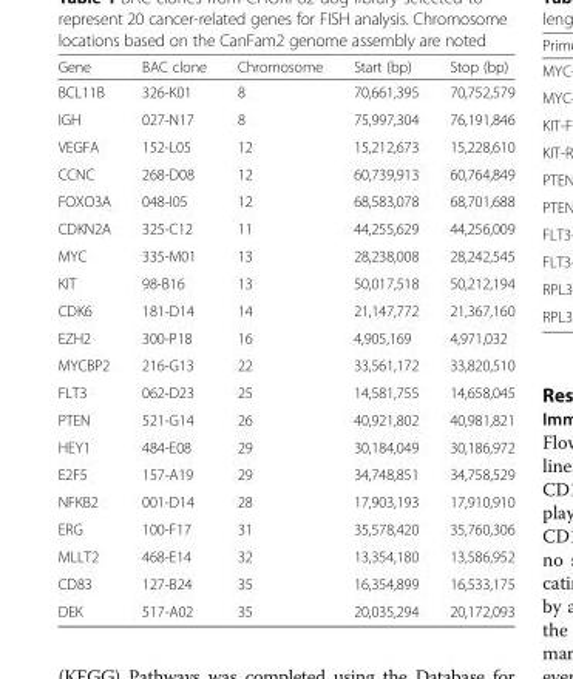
<table><thead><tr><td>Gene</td><td>BAC clone</td><td>Chromosome</td><td>Start (bp)</td><td>Stop (bp)</td></tr></thead><tbody><tr><td>BCL11B</td><td>326-K01</td><td>8</td><td>70,661,395</td><td>70,752,579</td></tr><tr><td>IGH</td><td>027-N17</td><td>8</td><td>75,997,304</td><td>76,191,846</td></tr><tr><td>VEGFA</td><td>152-L05</td><td>12</td><td>15,212,673</td><td>15,228,610</td></tr><tr><td>CCNC</td><td>268-D08</td><td>12</td><td>60,739,913</td><td>60,764,849</td></tr><tr><td>FOXO3A</td><td>048-I05</td><td>12</td><td>68,583,078</td><td>68,701,688</td></tr><tr><td>CDKN2A</td><td>325-C12</td><td>11</td><td>44,255,629</td><td>44,256,009</td></tr><tr><td>MYC</td><td>335-M01</td><td>13</td><td>28,238,008</td><td>28,242,545</td></tr><tr><td>KIT</td><td>98-B16</td><td>13</td><td>50,017,518</td><td>50,212,194</td></tr><tr><td>CDK6</td><td>181-D14</td><td>14</td><td>21,147,772</td><td>21,367,160</td></tr><tr><td>EZH2</td><td>300-P18</td><td>16</td><td>4,905,169</td><td>4,971,032</td></tr><tr><td>MYCBP2</td><td>216-G13</td><td>22</td><td>33,561,172</td><td>33,820,510</td></tr><tr><td>FLT3</td><td>062-D23</td><td>25</td><td>14,581,755</td><td>14,658,045</td></tr><tr><td>PTEN</td><td>521-G14</td><td>26</td><td>40,921,802</td><td>40,981,821</td></tr><tr><td>HEY1</td><td>484-E08</td><td>29</td><td>30,184,049</td><td>30,186,972</td></tr><tr><td>E2F5</td><td>157-A19</td><td>29</td><td>34,748,851</td><td>34,758,529</td></tr><tr><td>NFKB2</td><td>001-D14</td><td>28</td><td>17,903,193</td><td>17,910,910</td></tr><tr><td>ERG</td><td>100-F17</td><td>31</td><td>35,578,420</td><td>35,760,306</td></tr><tr><td>MLLT2</td><td>468-E14</td><td>32</td><td>13,354,180</td><td>13,586,952</td></tr><tr><td>CD83</td><td>127-B24</td><td>35</td><td>16,354,899</td><td>16,533,175</td></tr><tr><td>DEK</td><td>517-A02</td><td>35</td><td>20,035,294</td><td>20,172,093</td></tr></tbody></table>